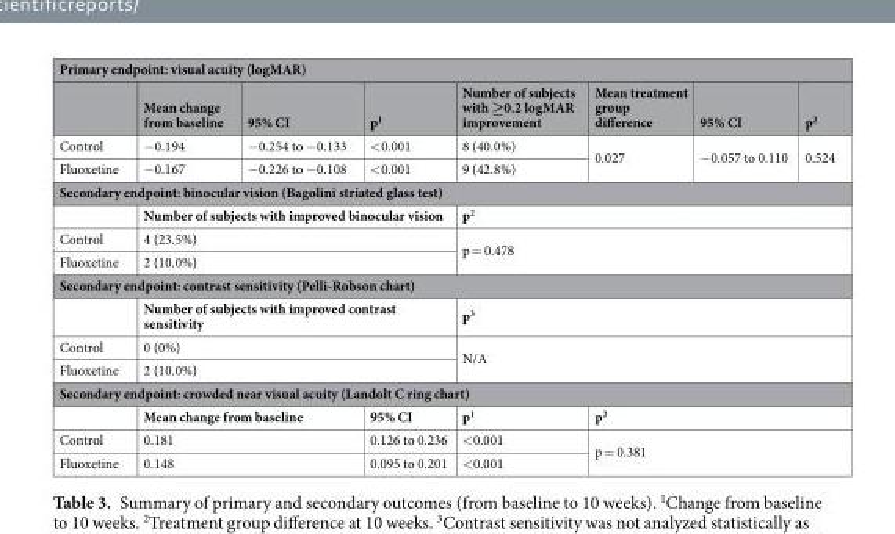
<table><thead><tr><td colspan="8">Primary endpoint: visual acuity (logMAR)</td></tr><tr><td></td><td>Mean change from baseline</td><td>95% CI</td><td>p<sup>1</sup></td><td>Number of subjects with ≥0.2 logMAR improvement</td><td>Mean treatment group difference</td><td>95% CI</td><td>p<sup>2</sup></td></tr></thead><tbody><tr><td>Control</td><td>−0.194</td><td>−0.254 to −0.133</td><td>&lt;0.001</td><td>8 (40.0%)</td><td rowspan="2">0.027</td><td rowspan="2">−0.057 to 0.110</td><td rowspan="2">0.524</td></tr><tr><td>Fluoxetine</td><td>−0.167</td><td>−0.226 to −0.108</td><td>&lt;0.001</td><td>9 (42.8%)</td></tr><tr><td colspan="8">Secondary endpoint: binocular vision (Bagolini striated glass test)</td></tr><tr><td></td><td colspan="3">Number of subjects with improved binocular vision</td><td colspan="4">p<sup>2</sup></td></tr><tr><td>Control</td><td colspan="3">4 (23.5%)</td><td rowspan="2" colspan="4">p = 0.478</td></tr><tr><td>Fluoxetine</td><td colspan="3">2 (10.0%)</td></tr><tr><td colspan="8">Secondary endpoint: contrast sensitivity (Pelli-Robson chart)</td></tr><tr><td></td><td colspan="3">Number of subjects with improved contrast sensitivity</td><td colspan="4">p<sup>3</sup></td></tr><tr><td>Control</td><td colspan="3">0 (0%)</td><td rowspan="2" colspan="4">N/A</td></tr><tr><td>Fluoxetine</td><td colspan="3">2 (10.0%)</td></tr><tr><td colspan="8">Secondary endpoint: crowded near visual acuity (Landolt C ring chart)</td></tr><tr><td></td><td colspan="2">Mean change from baseline</td><td>95% CI</td><td>p<sup>1</sup></td><td colspan="3">p<sup>2</sup></td></tr><tr><td>Control</td><td colspan="2">0.181</td><td>0.126 to 0.236</td><td>&lt;0.001</td><td rowspan="2" colspan="3">p = 0.381</td></tr><tr><td>Fluoxetine</td><td colspan="2">0.148</td><td>0.095 to 0.201</td><td>&lt;0.001</td></tr></tbody></table>